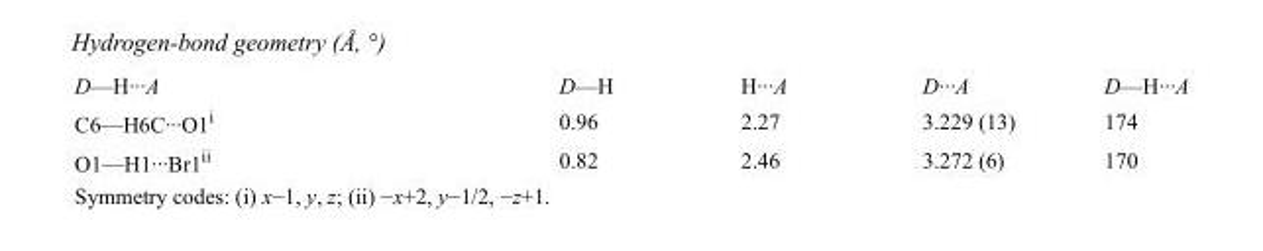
<table><tbody><tr><td>D—H···A</td><td>D—H</td><td>H···A</td><td>D···A</td><td>D—H···A</td></tr><tr><td>C6—H6C···O1<sup>i</sup></td><td>0.96</td><td>2.27</td><td>3.229 (13)</td><td>174</td></tr><tr><td>O1—H1···Br1<sup>ii</sup></td><td>0.82</td><td>2.46</td><td>3.272 (6)</td><td>170</td></tr></tbody></table>